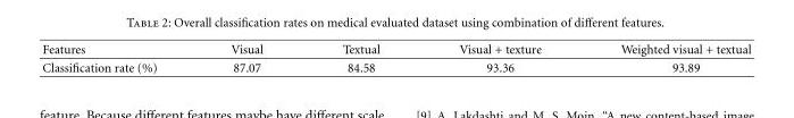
<table><thead><tr><td>Features</td><td>Visual</td><td>Textual</td><td>Visual + texture</td><td>Weighted visual + textual</td></tr></thead><tbody><tr><td>Classification rate (%)</td><td>87.07</td><td>84.58</td><td>93.36</td><td>93.89</td></tr></tbody></table>